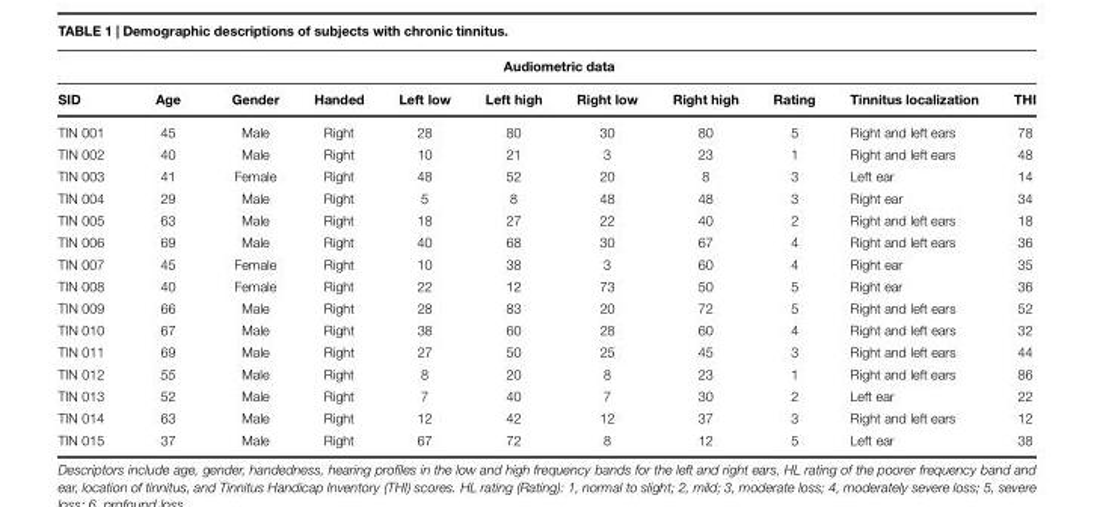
<table><thead><tr><td colspan="11">Audiometric data</td></tr><tr><td>SID</td><td>Age</td><td>Gender</td><td>Handed</td><td>Left low</td><td>Left high</td><td>Right low</td><td>Right high</td><td>Rating</td><td>Tinnitus localization</td><td>THI</td></tr></thead><tbody><tr><td>TIN 001</td><td>45</td><td>Male</td><td>Right</td><td>28</td><td>80</td><td>30</td><td>80</td><td>5</td><td>Right and left ears</td><td>78</td></tr><tr><td>TIN 002</td><td>40</td><td>Male</td><td>Right</td><td>10</td><td>21</td><td>3</td><td>23</td><td>1</td><td>Right and left ears</td><td>48</td></tr><tr><td>TIN 003</td><td>41</td><td>Female</td><td>Right</td><td>48</td><td>52</td><td>20</td><td>8</td><td>3</td><td>Left ear</td><td>14</td></tr><tr><td>TIN 004</td><td>29</td><td>Male</td><td>Right</td><td>5</td><td>8</td><td>48</td><td>48</td><td>3</td><td>Right ear</td><td>34</td></tr><tr><td>TIN 005</td><td>63</td><td>Male</td><td>Right</td><td>18</td><td>27</td><td>22</td><td>40</td><td>2</td><td>Right and left ears</td><td>18</td></tr><tr><td>TIN 006</td><td>69</td><td>Male</td><td>Right</td><td>40</td><td>68</td><td>30</td><td>67</td><td>4</td><td>Right and left ears</td><td>36</td></tr><tr><td>TIN 007</td><td>45</td><td>Female</td><td>Right</td><td>10</td><td>38</td><td>3</td><td>60</td><td>4</td><td>Right ear</td><td>35</td></tr><tr><td>TIN 008</td><td>40</td><td>Female</td><td>Right</td><td>22</td><td>12</td><td>73</td><td>50</td><td>5</td><td>Right ear</td><td>36</td></tr><tr><td>TIN 009</td><td>66</td><td>Male</td><td>Right</td><td>28</td><td>83</td><td>20</td><td>72</td><td>5</td><td>Right and left ears</td><td>52</td></tr><tr><td>TIN 010</td><td>67</td><td>Male</td><td>Right</td><td>38</td><td>60</td><td>28</td><td>60</td><td>4</td><td>Right and left ears</td><td>32</td></tr><tr><td>TIN 011</td><td>69</td><td>Male</td><td>Right</td><td>27</td><td>50</td><td>25</td><td>45</td><td>3</td><td>Right and left ears</td><td>44</td></tr><tr><td>TIN 012</td><td>55</td><td>Male</td><td>Right</td><td>8</td><td>20</td><td>8</td><td>23</td><td>1</td><td>Right and left ears</td><td>86</td></tr><tr><td>TIN 013</td><td>52</td><td>Male</td><td>Right</td><td>7</td><td>40</td><td>7</td><td>30</td><td>2</td><td>Left ear</td><td>22</td></tr><tr><td>TIN 014</td><td>63</td><td>Male</td><td>Right</td><td>12</td><td>42</td><td>12</td><td>37</td><td>3</td><td>Right and left ears</td><td>12</td></tr><tr><td>TIN 015</td><td>37</td><td>Male</td><td>Right</td><td>67</td><td>72</td><td>8</td><td>12</td><td>5</td><td>Left ear</td><td>38</td></tr></tbody></table>